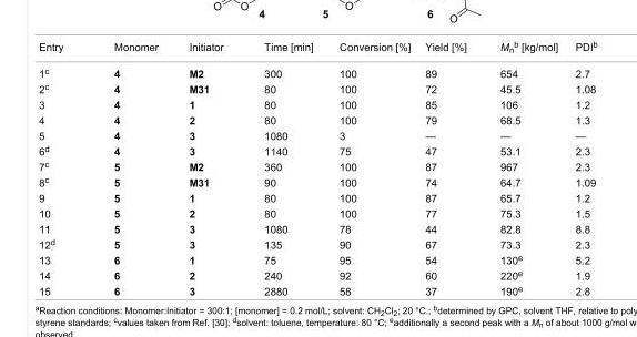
<table><tbody><tr><td>Entry</td><td>Monomer</td><td>Initiator</td><td>Time [min]</td><td>Conversion [%]</td><td>Yield [%]</td><td>M<sub>n</sub><sup>b</sup> [kg/mol]</td><td>PDI<sup>b</sup></td></tr><tr><td>1<sup>c</sup></td><td>4</td><td>M2</td><td>300</td><td>100</td><td>89</td><td>654</td><td>2.7</td></tr><tr><td>2<sup>c</sup></td><td>4</td><td>M31</td><td>80</td><td>100</td><td>72</td><td>45.5</td><td>1.08</td></tr><tr><td>3</td><td>4</td><td>1</td><td>80</td><td>100</td><td>85</td><td>106</td><td>1.2</td></tr><tr><td>4</td><td>4</td><td>2</td><td>80</td><td>100</td><td>79</td><td>68.5</td><td>1.3</td></tr><tr><td>5</td><td>4</td><td>3</td><td>1080</td><td>3</td><td>—</td><td>—</td><td>—</td></tr><tr><td>6<sup>d</sup></td><td>4</td><td>3</td><td>1140</td><td>75</td><td>47</td><td>53.1</td><td>2.3</td></tr><tr><td>7<sup>c</sup></td><td>5</td><td>M2</td><td>360</td><td>100</td><td>87</td><td>967</td><td>2.3</td></tr><tr><td>8<sup>c</sup></td><td>5</td><td>M31</td><td>90</td><td>100</td><td>74</td><td>64.7</td><td>1.09</td></tr><tr><td>9</td><td>5</td><td>1</td><td>80</td><td>100</td><td>87</td><td>65.7</td><td>1.2</td></tr><tr><td>10</td><td>5</td><td>2</td><td>80</td><td>100</td><td>77</td><td>75.3</td><td>1.5</td></tr><tr><td>11</td><td>5</td><td>3</td><td>1080</td><td>78</td><td>44</td><td>82.8</td><td>8.8</td></tr><tr><td>12<sup>d</sup></td><td>5</td><td>3</td><td>135</td><td>90</td><td>67</td><td>73.3</td><td>2.3</td></tr><tr><td>13</td><td>6</td><td>1</td><td>75</td><td>95</td><td>54</td><td>130<sup>e</sup></td><td>5.2</td></tr><tr><td>14</td><td>6</td><td>2</td><td>240</td><td>92</td><td>60</td><td>220<sup>e</sup></td><td>1.9</td></tr><tr><td>15</td><td>6</td><td>3</td><td>2880</td><td>58</td><td>37</td><td>190<sup>e</sup></td><td>2.8</td></tr></tbody></table>